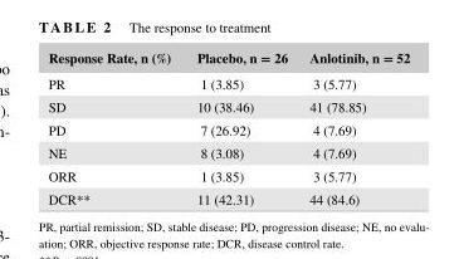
<table><thead><tr><td>Response Rate, n (%)</td><td>Placebo, n = 26</td><td>Anlotinib, n = 52</td></tr></thead><tbody><tr><td>PR</td><td>1 (3.85)</td><td>3 (5.77)</td></tr><tr><td>SD</td><td>10 (38.46)</td><td>41 (78.85)</td></tr><tr><td>PD</td><td>7 (26.92)</td><td>4 (7.69)</td></tr><tr><td>NE</td><td>8 (3.08)</td><td>4 (7.69)</td></tr><tr><td>ORR</td><td>1 (3.85)</td><td>3 (5.77)</td></tr><tr><td>DCR**</td><td>11 (42.31)</td><td>44 (84.6)</td></tr></tbody></table>